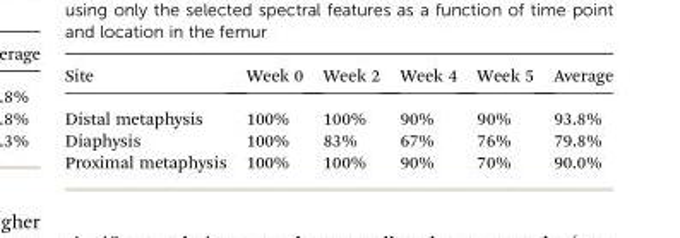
<table><thead><tr><td>Site</td><td>Week 0</td><td>Week 2</td><td>Week 4</td><td>Week 5</td><td>Average</td></tr></thead><tbody><tr><td>Distal metaphysis</td><td>100%</td><td>100%</td><td>90%</td><td>90%</td><td>93.8%</td></tr><tr><td>Diaphysis</td><td>100%</td><td>83%</td><td>67%</td><td>76%</td><td>79.8%</td></tr><tr><td>Proximal metaphysis</td><td>100%</td><td>100%</td><td>90%</td><td>70%</td><td>90.0%</td></tr></tbody></table>